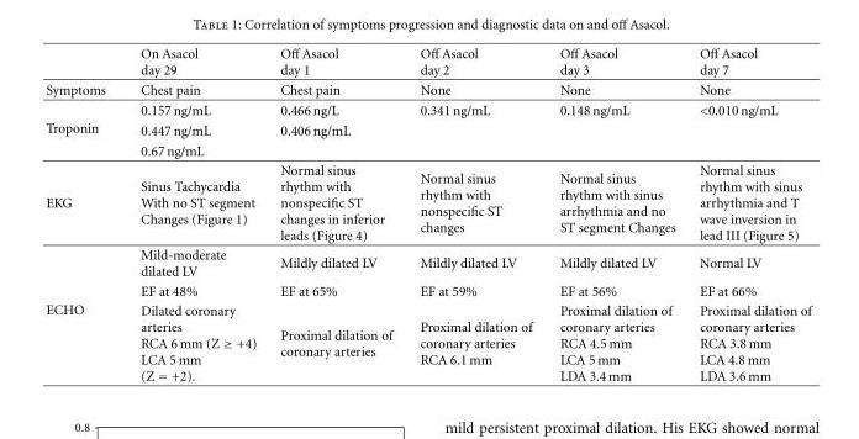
<table><thead><tr><td></td><td>On Asacol day 29</td><td>Off Asacol day 1</td><td>Off Asacol day 2</td><td>Off Asacol day 3</td><td>Off Asacol day 7</td></tr></thead><tbody><tr><td>Symptoms</td><td>Chest pain</td><td>Chest pain</td><td>None</td><td>None</td><td>None</td></tr><tr><td rowspan="3">Troponin</td><td>0.157 ng/mL</td><td>0.466 ng/L</td><td>0.341 ng/mL</td><td>0.148 ng/mL</td><td>&lt;0.010 ng/mL</td></tr><tr><td>0.447 ng/mL</td><td>0.406 ng/mL</td><td></td><td></td><td></td></tr><tr><td>0.67 ng/mL</td><td></td><td></td><td></td><td></td></tr><tr><td>EKG</td><td>Sinus Tachycardia With no ST segment Changes (Figure 1)</td><td>Normal sinus rhythm with nonspecific ST changes in inferior leads (Figure 4)</td><td>Normal sinus rhythm with nonspecific ST changes</td><td>Normal sinus rhythm with sinus arrhythmia and no ST segment Changes</td><td>Normal sinus rhythm with sinus arrhythmia and T wave inversion in lead III (Figure 5)</td></tr><tr><td rowspan="3">ECHO</td><td>Mild-moderate dilated LV</td><td>Mildly dilated LV</td><td>Mildly dilated LV</td><td>Mildly dilated LV</td><td>Normal LV</td></tr><tr><td>EF at 48%</td><td>EF at 65%</td><td>EF at 59%</td><td>EF at 56%</td><td>EF at 66%</td></tr><tr><td>Dilated coronary arteries RCA 6 mm (Z ≥ +4) LCA 5 mm (Z = +2).</td><td>Proximal dilation of coronary arteries</td><td>Proximal dilation of coronary arteries RCA 6.1 mm</td><td>Proximal dilation of coronary arteries RCA 4.5 mm LCA 5 mm LDA 3.4 mm</td><td>Proximal dilation of coronary arteries RCA 3.8 mm LCA 4.8 mm LDA 3.6 mm</td></tr></tbody></table>